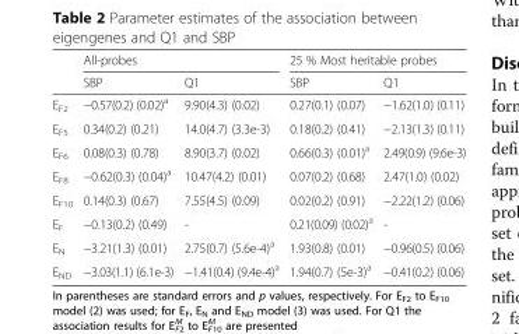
<table><thead><tr><td rowspan="2"></td><td colspan="2">All-probes</td><td colspan="2">25 % Most heritable probes</td></tr><tr><td>SBP</td><td>Q1</td><td>SBP</td><td>Q1</td></tr></thead><tbody><tr><td>E<sub>F2</sub></td><td>−0.57(0.2) (0.02)<sup>a</sup></td><td>9.90(4.3) (0.02)</td><td>0.27(0.1) (0.07)</td><td>−1.62(1.0) (0.11)</td></tr><tr><td>E<sub>F5</sub></td><td>0.34(0.2) (0.21)</td><td>14.0(4.7) (3.3e-3)</td><td>0.18(0.2) (0.41)</td><td>−2.13(1.3) (0.11)</td></tr><tr><td>E<sub>F6</sub></td><td>0.08(0.3) (0.78)</td><td>8.90(3.7) (0.02)</td><td>0.66(0.3) (0.01)<sup>a</sup></td><td>2.49(0.9) (9.6e-3)</td></tr><tr><td>E<sub>F8</sub></td><td>−0.62(0.3) (0.04)<sup>a</sup></td><td>10.47(4.2) (0.01)</td><td>0.07(0.2) (0.68)</td><td>2.47(1.0) (0.02)</td></tr><tr><td>E<sub>F10</sub></td><td>0.14(0.3) (0.67)</td><td>7.55(4.5) (0.09)</td><td>0.02(0.2) (0.91)</td><td>−2.22(1.2) (0.06)</td></tr><tr><td>E<sub>F</sub></td><td>−0.13(0.2) (0.49)</td><td>-</td><td>0.21(0.09) (0.02)<sup>a</sup></td><td>-</td></tr><tr><td>E<sub>N</sub></td><td>−3.21(1.3) (0.01)</td><td>2.75(0.7) (5.6e-4)<sup>a</sup></td><td>1.93(0.8) (0.01)</td><td>−0.96(0.5) (0.06)</td></tr><tr><td>E<sub>ND</sub></td><td>−3.03(1.1) (6.1e-3)</td><td>−1.41(0.4) (9.4e-4)<sup>a</sup></td><td>1.94(0.7) (5e-3)<sup>a</sup></td><td>−0.41(0.2) (0.06)</td></tr></tbody></table>